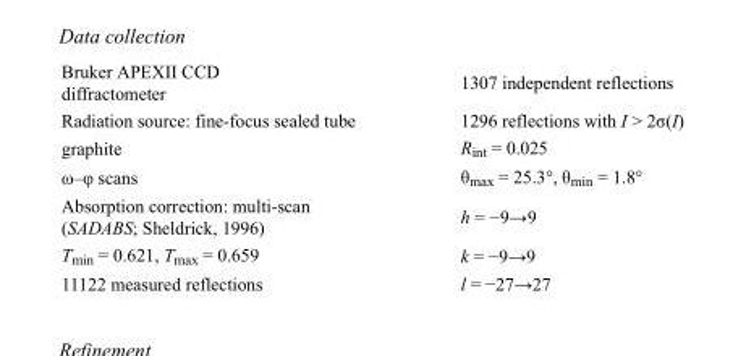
<table><tbody><tr><td>Bruker APEXII CCD diffractometer</td><td>1307 independent reflections</td></tr><tr><td>Radiation source: fine-focus sealed tube</td><td>1296 reflections with I &gt; 2σ(I)</td></tr><tr><td>graphite</td><td>R<sub>int</sub> = 0.025</td></tr><tr><td>ω–φ scans</td><td>θ<sub>max</sub> = 25.3°, θ<sub>min</sub> = 1.8°</td></tr><tr><td>Absorption correction: multi-scan (SADABS; Sheldrick, 1996)</td><td>h = −9→9</td></tr><tr><td>T<sub>min</sub> = 0.621, T<sub>max</sub> = 0.659</td><td>k = −9→9</td></tr><tr><td>11122 measured reflections</td><td>l = −27→27</td></tr></tbody></table>